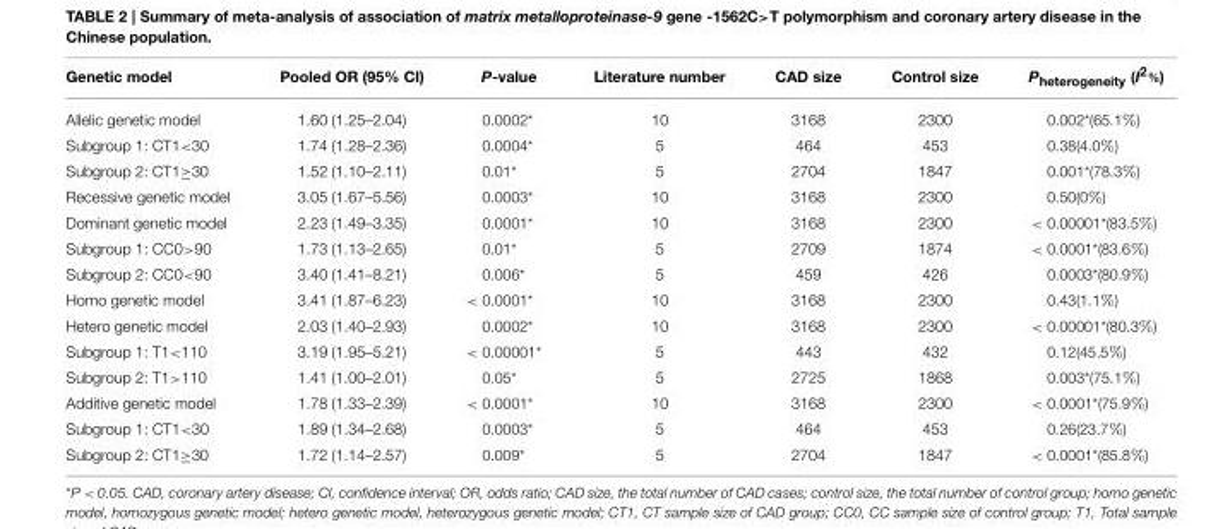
<table><thead><tr><td>Genetic model</td><td>Pooled OR (95% CI)</td><td>P-value</td><td>Literature number</td><td>CAD size</td><td>Control size</td><td>P<sub>heterogeneity</sub> (I<sup>2</sup>%)</td></tr></thead><tbody><tr><td>Allelic genetic model</td><td>1.60 (1.25–2.04)</td><td>0.0002*</td><td>10</td><td>3168</td><td>2300</td><td>0.002*(65.1%)</td></tr><tr><td>Subgroup 1: CT1&lt;30</td><td>1.74 (1.28–2.36)</td><td>0.0004*</td><td>5</td><td>464</td><td>453</td><td>0.38(4.0%)</td></tr><tr><td>Subgroup 2: CT1≥30</td><td>1.52 (1.10–2.11)</td><td>0.01*</td><td>5</td><td>2704</td><td>1847</td><td>0.001*(78.3%)</td></tr><tr><td>Recessive genetic model</td><td>3.05 (1.67–5.56)</td><td>0.0003*</td><td>10</td><td>3168</td><td>2300</td><td>0.50(0%)</td></tr><tr><td>Dominant genetic model</td><td>2.23 (1.49–3.35)</td><td>0.0001*</td><td>10</td><td>3168</td><td>2300</td><td>&lt; 0.00001*(83.5%)</td></tr><tr><td>Subgroup 1: CC0&gt;90</td><td>1.73 (1.13–2.65)</td><td>0.01*</td><td>5</td><td>2709</td><td>1874</td><td>&lt; 0.0001*(83.6%)</td></tr><tr><td>Subgroup 2: CC0&lt;90</td><td>3.40 (1.41–8.21)</td><td>0.006*</td><td>5</td><td>459</td><td>426</td><td>0.0003*(80.9%)</td></tr><tr><td>Homo genetic model</td><td>3.41 (1.87–6.23)</td><td>&lt; 0.0001*</td><td>10</td><td>3168</td><td>2300</td><td>0.43(1.1%)</td></tr><tr><td>Hetero genetic model</td><td>2.03 (1.40–2.93)</td><td>0.0002*</td><td>10</td><td>3168</td><td>2300</td><td>&lt; 0.00001*(80.3%)</td></tr><tr><td>Subgroup 1: T1&lt;110</td><td>3.19 (1.95–5.21)</td><td>&lt; 0.00001*</td><td>5</td><td>443</td><td>432</td><td>0.12(45.5%)</td></tr><tr><td>Subgroup 2: T1&gt;110</td><td>1.41 (1.00–2.01)</td><td>0.05*</td><td>5</td><td>2725</td><td>1868</td><td>0.003*(75.1%)</td></tr><tr><td>Additive genetic model</td><td>1.78 (1.33–2.39)</td><td>&lt; 0.0001*</td><td>10</td><td>3168</td><td>2300</td><td>&lt; 0.0001*(75.9%)</td></tr><tr><td>Subgroup 1: CT1&lt;30</td><td>1.89 (1.34–2.68)</td><td>0.0003*</td><td>5</td><td>464</td><td>453</td><td>0.26(23.7%)</td></tr><tr><td>Subgroup 2: CT1≥30</td><td>1.72 (1.14–2.57)</td><td>0.009*</td><td>5</td><td>2704</td><td>1847</td><td>&lt; 0.0001*(85.8%)</td></tr></tbody></table>